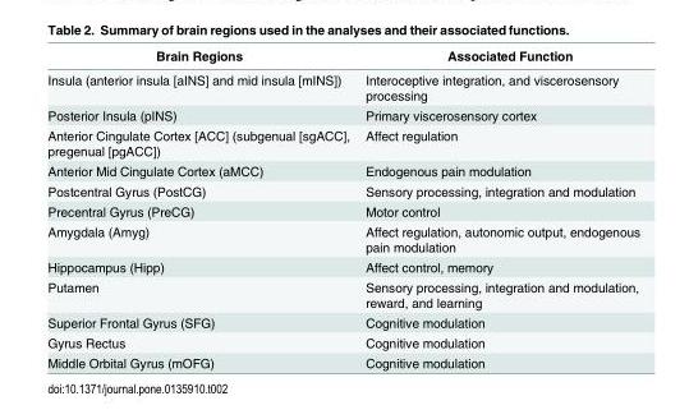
<table><thead><tr><td>Brain Regions</td><td>Associated Function</td></tr></thead><tbody><tr><td>Insula (anterior insula [aINS] and mid insula [mINS])</td><td>Interoceptive integration, and viscerosensory processing</td></tr><tr><td>Posterior Insula (pINS)</td><td>Primary viscerosensory cortex</td></tr><tr><td>Anterior Cingulate Cortex [ACC] (subgenual [sgACC], pregenual [pgACC])</td><td>Affect regulation</td></tr><tr><td>Anterior Mid Cingulate Cortex (aMCC)</td><td>Endogenous pain modulation</td></tr><tr><td>Postcentral Gyrus (PostCG)</td><td>Sensory processing, integration and modulation</td></tr><tr><td>Precentral Gyrus (PreCG)</td><td>Motor control</td></tr><tr><td>Amygdala (Amyg)</td><td>Affect regulation, autonomic output, endogenous pain modulation</td></tr><tr><td>Hippocampus (Hipp)</td><td>Affect control, memory</td></tr><tr><td>Putamen</td><td>Sensory processing, integration and modulation, reward, and learning</td></tr><tr><td>Superior Frontal Gyrus (SFG)</td><td>Cognitive modulation</td></tr><tr><td>Gyrus Rectus</td><td>Cognitive modulation</td></tr><tr><td>Middle Orbital Gyrus (mOFG)</td><td>Cognitive modulation</td></tr></tbody></table>